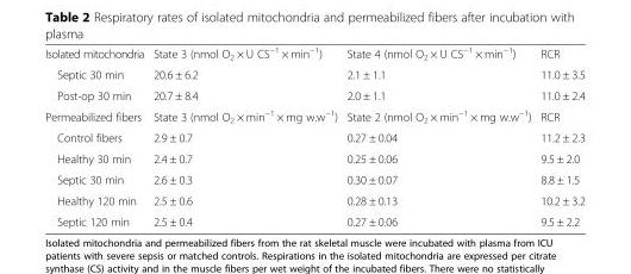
<table><tbody><tr><td>Isolated mitochondria</td><td>State 3 (nmol O<sub>2</sub> × U CS<sup>−1</sup> × min<sup>−1</sup>)</td><td>State 4 (nmol O<sub>2</sub> × U CS<sup>−1</sup> × min<sup>−1</sup>)</td><td>RCR</td></tr><tr><td>Septic 30 min</td><td>20.6 ± 6.2</td><td>2.1 ± 1.1</td><td>11.0 ± 3.5</td></tr><tr><td>Post-op 30 min</td><td>20.7 ± 8.4</td><td>2.0 ± 1.1</td><td>11.0 ± 2.4</td></tr><tr><td>Permeabilized fibers</td><td>State 3 (nmol O<sub>2</sub> × min<sup>−1</sup> × mg w.w<sup>−1</sup>)</td><td>State 2 (nmol O<sub>2</sub> × min<sup>−1</sup> × mg w.w<sup>−1</sup>)</td><td>RCR</td></tr><tr><td>Control fibers</td><td>2.9 ± 0.7</td><td>0.27 ± 0.04</td><td>11.2 ± 2.3</td></tr><tr><td>Healthy 30 min</td><td>2.4 ± 0.7</td><td>0.25 ± 0.06</td><td>9.5 ± 2.0</td></tr><tr><td>Septic 30 min</td><td>2.6 ± 0.3</td><td>0.30 ± 0.07</td><td>8.8 ± 1.5</td></tr><tr><td>Healthy 120 min</td><td>2.5 ± 0.6</td><td>0.28 ± 0.13</td><td>10.2 ± 3.2</td></tr><tr><td>Septic 120 min</td><td>2.5 ± 0.4</td><td>0.27 ± 0.06</td><td>9.5 ± 2.2</td></tr></tbody></table>